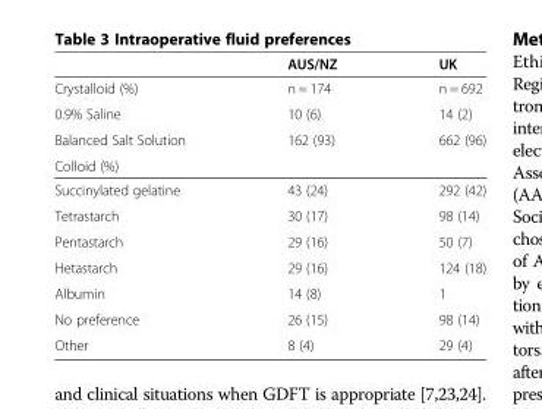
<table><thead><tr><td></td><td>AUS/NZ</td><td>UK</td></tr></thead><tbody><tr><td>Crystalloid (%)</td><td>n = 174</td><td>n = 692</td></tr><tr><td>0.9% Saline</td><td>10 (6)</td><td>14 (2)</td></tr><tr><td>Balanced Salt Solution</td><td>162 (93)</td><td>662 (96)</td></tr><tr><td colspan="3">Colloid (%)</td></tr><tr><td>Succinylated gelatine</td><td>43 (24)</td><td>292 (42)</td></tr><tr><td>Tetrastarch</td><td>30 (17)</td><td>98 (14)</td></tr><tr><td>Pentastarch</td><td>29 (16)</td><td>50 (7)</td></tr><tr><td>Hetastarch</td><td>29 (16)</td><td>124 (18)</td></tr><tr><td>Albumin</td><td>14 (8)</td><td>1</td></tr><tr><td>No preference</td><td>26 (15)</td><td>98 (14)</td></tr><tr><td>Other</td><td>8 (4)</td><td>29 (4)</td></tr></tbody></table>